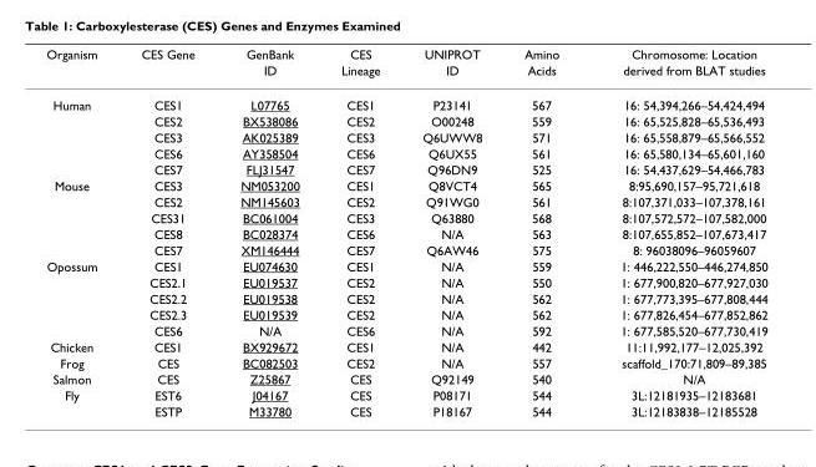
<table><thead><tr><td rowspan="2">Organism</td><td rowspan="2">CES Gene</td><td rowspan="2">GenBank ID</td><td rowspan="2">CES Lineage</td><td rowspan="2">UNIPROT ID</td><td rowspan="2">Amino Acids</td><td rowspan="2">Chromosome: Location derived from BLAT studies</td></tr><tr></tr></thead><tbody><tr><td rowspan="5">Human</td><td>CES1</td><td>L07765</td><td>CES1</td><td>P23141</td><td>567</td><td>16: 54,394,266–54,424,494</td></tr><tr><td>CES2</td><td>BX538086</td><td>CES2</td><td>O00248</td><td>559</td><td>16: 65,525,828–65,536,493</td></tr><tr><td>CES3</td><td>AK025389</td><td>CES3</td><td>Q6UWW8</td><td>571</td><td>16: 65,558,879–65,566,552</td></tr><tr><td>CES6</td><td>AY358504</td><td>CES6</td><td>Q6UX55</td><td>561</td><td>16: 65,580,134–65,601,160</td></tr><tr><td>CES7</td><td>FLJ31547</td><td>CES7</td><td>Q96DN9</td><td>525</td><td>16: 54,437,629–54,466,783</td></tr><tr><td rowspan="5">Mouse</td><td>CES3</td><td>NM053200</td><td>CES1</td><td>Q8VCT4</td><td>565</td><td>8:95,690,157–95,721,618</td></tr><tr><td>CES2</td><td>NM145603</td><td>CES2</td><td>Q91WG0</td><td>561</td><td>8:107,371,033–107,378,161</td></tr><tr><td>CES31</td><td>BC061004</td><td>CES3</td><td>Q63880</td><td>568</td><td>8:107,572,572–107,582,000</td></tr><tr><td>CES8</td><td>BC028374</td><td>CES6</td><td>N/A</td><td>563</td><td>8:107,655,852–107,673,417</td></tr><tr><td>CES7</td><td>XM146444</td><td>CES7</td><td>Q6AW46</td><td>575</td><td>8: 96038096–96059607</td></tr><tr><td rowspan="5">Opossum</td><td>CES1</td><td>EU074630</td><td>CES1</td><td>N/A</td><td>559</td><td>1: 446,222,550–446,274,850</td></tr><tr><td>CES2.1</td><td>EU019537</td><td>CES2</td><td>N/A</td><td>550</td><td>1: 677,900,820–677,927,030</td></tr><tr><td>CES2.2</td><td>EU019538</td><td>CES2</td><td>N/A</td><td>562</td><td>1: 677,773,395–677,808,444</td></tr><tr><td>CES2.3</td><td>EU019539</td><td>CES2</td><td>N/A</td><td>562</td><td>1: 677,826,454–677,852,862</td></tr><tr><td>CES6</td><td>N/A</td><td>CES6</td><td>N/A</td><td>592</td><td>1: 677,585,520–677,730,419</td></tr><tr><td>Chicken</td><td>CES1</td><td>BX929672</td><td>CES1</td><td>N/A</td><td>442</td><td>11:11,992,177–12,025,392</td></tr><tr><td>Frog</td><td>CES</td><td>BC082503</td><td>CES2</td><td>N/A</td><td>557</td><td>scaffold_170:71,809–89,385</td></tr><tr><td>Salmon</td><td>CES</td><td>Z25867</td><td>CES</td><td>Q92149</td><td>540</td><td>N/A</td></tr><tr><td rowspan="2">Fly</td><td>EST6</td><td>J04167</td><td>CES</td><td>P08171</td><td>544</td><td>3L:12181935–12183681</td></tr><tr><td>ESTP</td><td>M33780</td><td>CES</td><td>P18167</td><td>544</td><td>3L:12183838–12185528</td></tr></tbody></table>